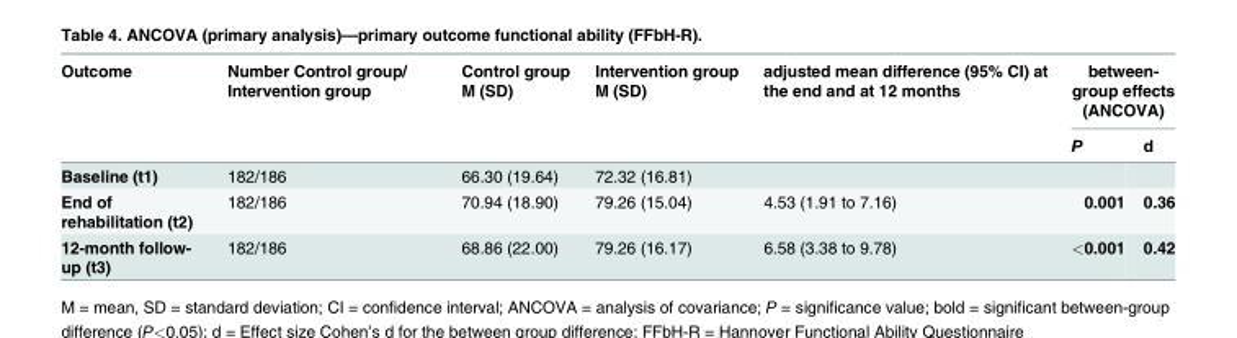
<table><thead><tr><td rowspan="2">Outcome</td><td rowspan="2">Number Control group/ Intervention group</td><td rowspan="2">Control group M (SD)</td><td rowspan="2">Intervention group M (SD)</td><td rowspan="2">adjusted mean difference (95% CI) at the end and at 12 months</td><td colspan="2">between- group effects (ANCOVA)</td></tr><tr><td>P</td><td>d</td></tr></thead><tbody><tr><td>Baseline (t1)</td><td>182/186</td><td>66.30 (19.64)</td><td>72.32 (16.81)</td><td></td><td></td><td></td></tr><tr><td>End of rehabilitation (t2)</td><td>182/186</td><td>70.94 (18.90)</td><td>79.26 (15.04)</td><td>4.53 (1.91 to 7.16)</td><td>0.001</td><td>0.36</td></tr><tr><td>12-month follow- up (t3)</td><td>182/186</td><td>68.86 (22.00)</td><td>79.26 (16.17)</td><td>6.58 (3.38 to 9.78)</td><td>&lt;0.001</td><td>0.42</td></tr></tbody></table>